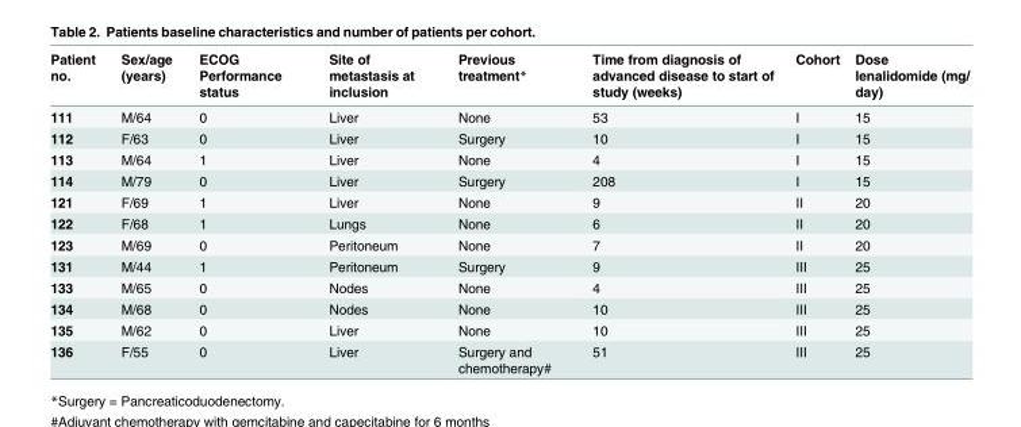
<table><thead><tr><td>Patient no.</td><td>Sex/age (years)</td><td>ECOG Performance status</td><td>Site of metastasis at inclusion</td><td>Previous treatment*</td><td>Time from diagnosis of advanced disease to start of study (weeks)</td><td>Cohort</td><td>Dose lenalidomide (mg/ day)</td></tr></thead><tbody><tr><td>111</td><td>M/64</td><td>0</td><td>Liver</td><td>None</td><td>53</td><td>I</td><td>15</td></tr><tr><td>112</td><td>F/63</td><td>0</td><td>Liver</td><td>Surgery</td><td>10</td><td>I</td><td>15</td></tr><tr><td>113</td><td>M/64</td><td>1</td><td>Liver</td><td>None</td><td>4</td><td>I</td><td>15</td></tr><tr><td>114</td><td>M/79</td><td>0</td><td>Liver</td><td>Surgery</td><td>208</td><td>I</td><td>15</td></tr><tr><td>121</td><td>F/69</td><td>1</td><td>Liver</td><td>None</td><td>9</td><td>II</td><td>20</td></tr><tr><td>122</td><td>F/68</td><td>1</td><td>Lungs</td><td>None</td><td>6</td><td>II</td><td>20</td></tr><tr><td>123</td><td>M/69</td><td>0</td><td>Peritoneum</td><td>None</td><td>7</td><td>II</td><td>20</td></tr><tr><td>131</td><td>M/44</td><td>1</td><td>Peritoneum</td><td>Surgery</td><td>9</td><td>III</td><td>25</td></tr><tr><td>133</td><td>M/65</td><td>0</td><td>Nodes</td><td>None</td><td>4</td><td>III</td><td>25</td></tr><tr><td>134</td><td>M/68</td><td>0</td><td>Nodes</td><td>None</td><td>10</td><td>III</td><td>25</td></tr><tr><td>135</td><td>M/62</td><td>0</td><td>Liver</td><td>None</td><td>10</td><td>III</td><td>25</td></tr><tr><td>136</td><td>F/55</td><td>0</td><td>Liver</td><td>Surgery and chemotherapy#</td><td>51</td><td>III</td><td>25</td></tr></tbody></table>